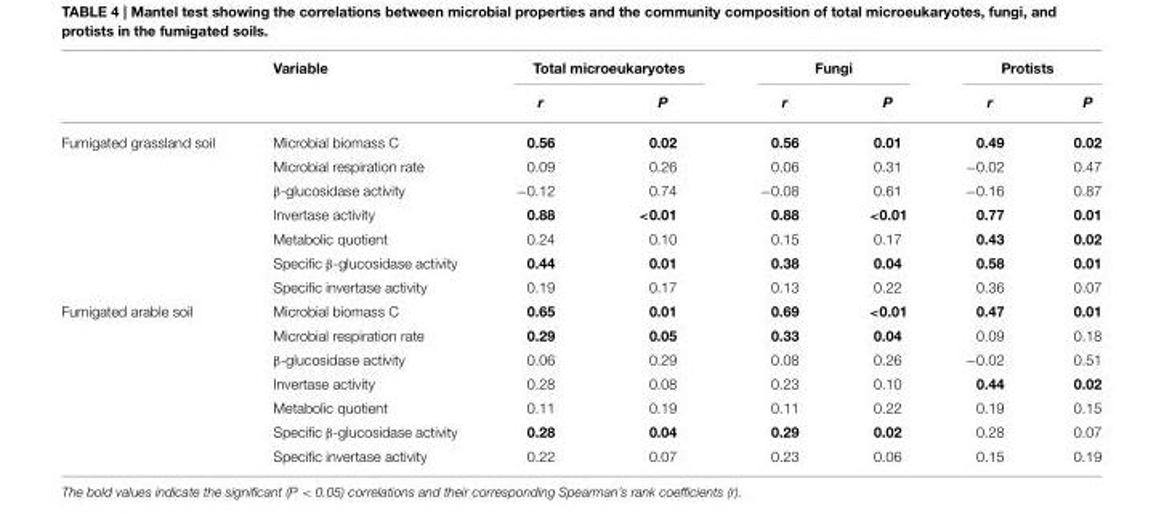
<table><thead><tr><td rowspan="2"></td><td rowspan="2">Variable</td><td colspan="2">Total microeukaryotes</td><td colspan="2">Fungi</td><td colspan="2">Protists</td></tr><tr><td>r</td><td>P</td><td>r</td><td>P</td><td>r</td><td>P</td></tr></thead><tbody><tr><td rowspan="7">Fumigated grassland soil</td><td>Microbial biomass C</td><td>0.56</td><td>0.02</td><td>0.56</td><td>0.01</td><td>0.49</td><td>0.02</td></tr><tr><td>Microbial respiration rate</td><td>0.09</td><td>0.26</td><td>0.06</td><td>0.31</td><td>−0.02</td><td>0.47</td></tr><tr><td>β-glucosidase activity</td><td>−0.12</td><td>0.74</td><td>−0.08</td><td>0.61</td><td>−0.16</td><td>0.87</td></tr><tr><td>Invertase activity</td><td>0.88</td><td>&lt;0.01</td><td>0.88</td><td>&lt;0.01</td><td>0.77</td><td>0.01</td></tr><tr><td>Metabolic quotient</td><td>0.24</td><td>0.10</td><td>0.15</td><td>0.17</td><td>0.43</td><td>0.02</td></tr><tr><td>Specific β-glucosidase activity</td><td>0.44</td><td>0.01</td><td>0.38</td><td>0.04</td><td>0.58</td><td>0.01</td></tr><tr><td>Specific invertase activity</td><td>0.19</td><td>0.17</td><td>0.13</td><td>0.22</td><td>0.36</td><td>0.07</td></tr><tr><td rowspan="7">Fumigated arable soil</td><td>Microbial biomass C</td><td>0.65</td><td>0.01</td><td>0.69</td><td>&lt;0.01</td><td>0.47</td><td>0.01</td></tr><tr><td>Microbial respiration rate</td><td>0.29</td><td>0.05</td><td>0.33</td><td>0.04</td><td>0.09</td><td>0.18</td></tr><tr><td>β-glucosidase activity</td><td>0.06</td><td>0.29</td><td>0.08</td><td>0.26</td><td>−0.02</td><td>0.51</td></tr><tr><td>Invertase activity</td><td>0.28</td><td>0.08</td><td>0.23</td><td>0.10</td><td>0.44</td><td>0.02</td></tr><tr><td>Metabolic quotient</td><td>0.11</td><td>0.19</td><td>0.11</td><td>0.22</td><td>0.19</td><td>0.15</td></tr><tr><td>Specific β-glucosidase activity</td><td>0.28</td><td>0.04</td><td>0.29</td><td>0.02</td><td>0.28</td><td>0.07</td></tr><tr><td>Specific invertase activity</td><td>0.22</td><td>0.07</td><td>0.23</td><td>0.06</td><td>0.15</td><td>0.19</td></tr></tbody></table>